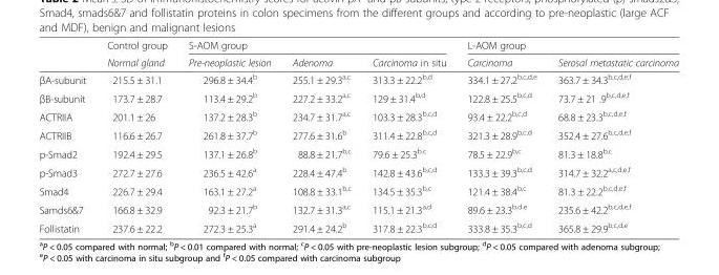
<table><thead><tr><td rowspan="2"></td><td rowspan="2">Control group Normal gland</td><td colspan="3">S-AOM group</td><td colspan="2">L-AOM group</td></tr><tr><td>Pre-neoplastic lesion</td><td>Adenoma</td><td>Carcinoma in situ</td><td>Carcinoma</td><td>Serosal metastatic carcinoma</td></tr></thead><tbody><tr><td>βA-subunit</td><td>215.5 ± 31.1</td><td>296.8 ± 34.4<sup>b</sup></td><td>255.1 ± 29.3<sup>a,c</sup></td><td>313.3 ± 22.2<sup>b,d</sup></td><td>334.1 ± 27.2<sup>b,c,d,e</sup></td><td>363.7 ± 34.3<sup>b,c,d,e,f</sup></td></tr><tr><td>βB-subunit</td><td>173.7 ± 28.7</td><td>113.4 ± 29.2<sup>b</sup></td><td>227.2 ± 33.2<sup>a,c</sup></td><td>129 ± 31.4<sup>b,d</sup></td><td>122.8 ± 25.5<sup>b,c,d</sup></td><td>73.7 ± 21 .9<sup>b,c,d,e,f</sup></td></tr><tr><td>ACTRIIA</td><td>201.1 ± 26</td><td>137.2 ± 28.3<sup>b</sup></td><td>234.7 ± 31.7<sup>a,c</sup></td><td>103.3 ± 28.3<sup>b,c,d</sup></td><td>93.4 ± 22.2<sup>b,c,d</sup></td><td>68.8 ± 23.3<sup>b,c,d,e,f</sup></td></tr><tr><td>ACTRIIB</td><td>116.6 ± 26.7</td><td>261.8 ± 37.7<sup>b</sup></td><td>277.6 ± 31.6<sup>b</sup></td><td>311.4 ± 22.8<sup>b,c,d</sup></td><td>321.3 ± 28.9<sup>b,c.d</sup></td><td>352.4 ± 27.6<sup>b,c,d,e,f</sup></td></tr><tr><td>p-Smad2</td><td>192.4 ± 29.5</td><td>137.1 ± 26.8<sup>b</sup></td><td>88.8 ± 21.7<sup>b,c</sup></td><td>79.6 ± 25.3<sup>b.c</sup></td><td>78.5 ± 22.9<sup>b,c</sup></td><td>81.3 ± 18.8<sup>b,c</sup></td></tr><tr><td>p-Smad3</td><td>272.7 ± 27.6</td><td>236.5 ± 42.6<sup>a</sup></td><td>228.4 ± 47.4<sup>b</sup></td><td>142.8 ± 43.6<sup>b,c,d</sup></td><td>133.3 ± 39.3<sup>b,c,d</sup></td><td>314.7 ± 32.2<sup>a,c,d,e,f</sup></td></tr><tr><td>Smad4</td><td>226.7 ± 29.4</td><td>163.1 ± 27.2<sup>a</sup></td><td>108.8 ± 33.1<sup>b,c</sup></td><td>134.5 ± 35.3<sup>b,c</sup></td><td>121.4 ± 38.4<sup>b,c</sup></td><td>81.3 ± 22.2<sup>b,c,d,e,f</sup></td></tr><tr><td>Samds6&amp;7</td><td>166.8 ± 32.9</td><td>92.3 ± 21.7<sup>b</sup></td><td>132.7 ± 31.3<sup>a,c</sup></td><td>115.1 ± 21.3<sup>a,d</sup></td><td>89.6 ± 23.3<sup>b.d.e</sup></td><td>235.6 ± 42.2<sup>b,c,d,e,f</sup></td></tr><tr><td>Follistatin</td><td>237.6 ± 22.2</td><td>272.3 ± 25.3<sup>a</sup></td><td>291.4 ± 24.2<sup>b</sup></td><td>317.8 ± 22.3<sup>b,c,d</sup></td><td>333.8 ± 35.3<sup>b,c,d</sup></td><td>365.8 ± 29.9<sup>b,c,d,e</sup></td></tr></tbody></table>